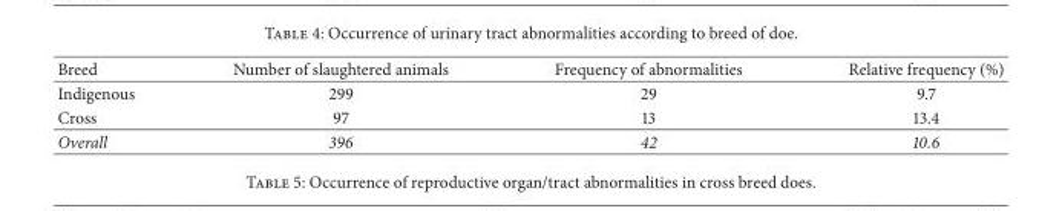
<table><thead><tr><td>Breed</td><td>Number of slaughtered animals</td><td>Frequency of abnormalities</td><td>Relative frequency (%)</td></tr></thead><tbody><tr><td>Indigenous</td><td>299</td><td>29</td><td>9.7</td></tr><tr><td>Cross</td><td>97</td><td>13</td><td>13.4</td></tr><tr><td>Overall</td><td>396</td><td>42</td><td>10.6</td></tr></tbody></table>